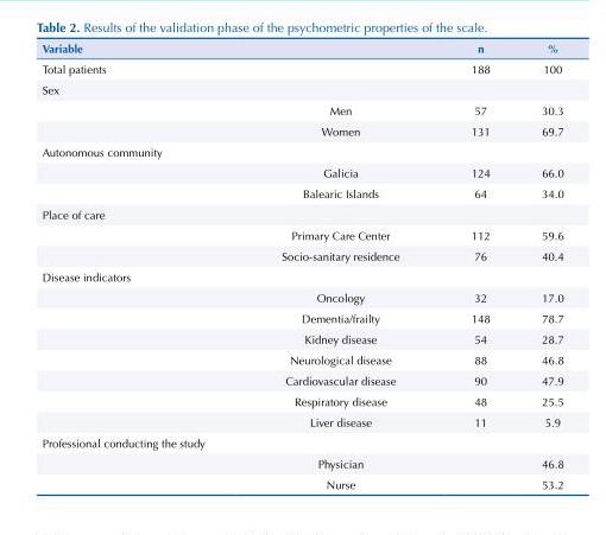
<table><thead><tr><td>Variable</td><td></td><td>n</td><td>%</td></tr></thead><tbody><tr><td>Total patients</td><td></td><td>188</td><td>100</td></tr><tr><td colspan="4">Sex</td></tr><tr><td></td><td>Men</td><td>57</td><td>30.3</td></tr><tr><td></td><td>Women</td><td>131</td><td>69.7</td></tr><tr><td colspan="4">Autonomous community</td></tr><tr><td></td><td>Galicia</td><td>124</td><td>66.0</td></tr><tr><td></td><td>Balearic Islands</td><td>64</td><td>34.0</td></tr><tr><td colspan="4">Place of care</td></tr><tr><td></td><td>Primary Care Center</td><td>112</td><td>59.6</td></tr><tr><td></td><td>Socio-sanitary residence</td><td>76</td><td>40.4</td></tr><tr><td colspan="4">Disease indicators</td></tr><tr><td></td><td>Oncology</td><td>32</td><td>17.0</td></tr><tr><td></td><td>Dementia/frailty</td><td>148</td><td>78.7</td></tr><tr><td></td><td>Kidney disease</td><td>54</td><td>28.7</td></tr><tr><td></td><td>Neurological disease</td><td>88</td><td>46.8</td></tr><tr><td></td><td>Cardiovascular disease</td><td>90</td><td>47.9</td></tr><tr><td></td><td>Respiratory disease</td><td>48</td><td>25.5</td></tr><tr><td></td><td>Liver disease</td><td>11</td><td>5.9</td></tr><tr><td colspan="4">Professional conducting the study</td></tr><tr><td></td><td>Physician</td><td></td><td>46.8</td></tr><tr><td></td><td>Nurse</td><td></td><td>53.2</td></tr></tbody></table>